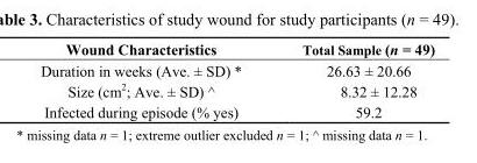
<table><thead><tr><td>Wound Characteristics</td><td>Total Sample (n = 49)</td></tr></thead><tbody><tr><td>Duration in weeks (Ave. ± SD) *</td><td>26.63 ± 20.66</td></tr><tr><td>Size (cm<sup>2</sup>; Ave. ± SD) ^</td><td>8.32 ± 12.28</td></tr><tr><td>Infected during episode (% yes)</td><td>59.2</td></tr></tbody></table>